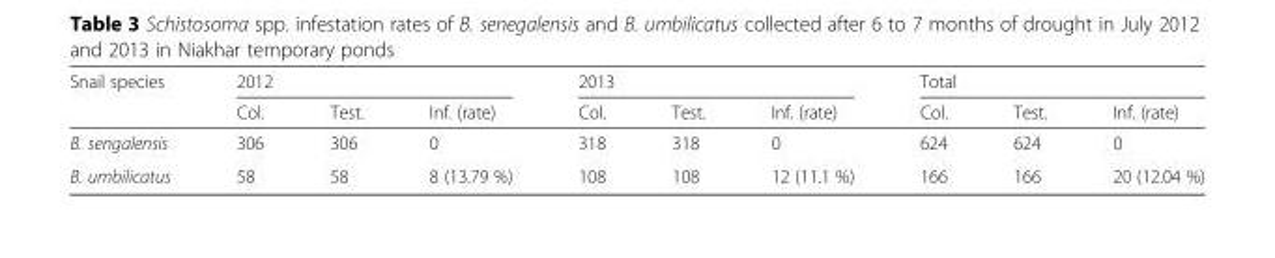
<table><thead><tr><td rowspan="2">Snail species</td><td colspan="3">2012</td><td colspan="3">2013</td><td colspan="3">Total</td></tr><tr><td>Col.</td><td>Test.</td><td>Inf. (rate)</td><td>Col.</td><td>Test.</td><td>Inf. (rate)</td><td>Col.</td><td>Test.</td><td>Inf. (rate)</td></tr></thead><tbody><tr><td>B. sengalensis</td><td>306</td><td>306</td><td>0</td><td>318</td><td>318</td><td>0</td><td>624</td><td>624</td><td>0</td></tr><tr><td>B. umbilicatus</td><td>58</td><td>58</td><td>8 (13.79 %)</td><td>108</td><td>108</td><td>12 (11.1 %)</td><td>166</td><td>166</td><td>20 (12.04 %)</td></tr></tbody></table>